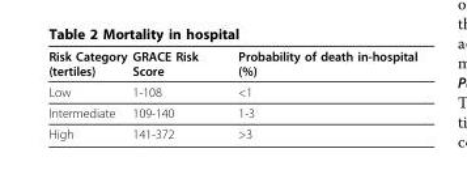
<table><thead><tr><td>Risk Category (tertiles)</td><td>GRACE Risk Score</td><td>Probability of death in-hospital (%)</td></tr></thead><tbody><tr><td>Low</td><td>1-108</td><td>&lt;1</td></tr><tr><td>Intermediate</td><td>109-140</td><td>1-3</td></tr><tr><td>High</td><td>141-372</td><td>&gt;3</td></tr></tbody></table>